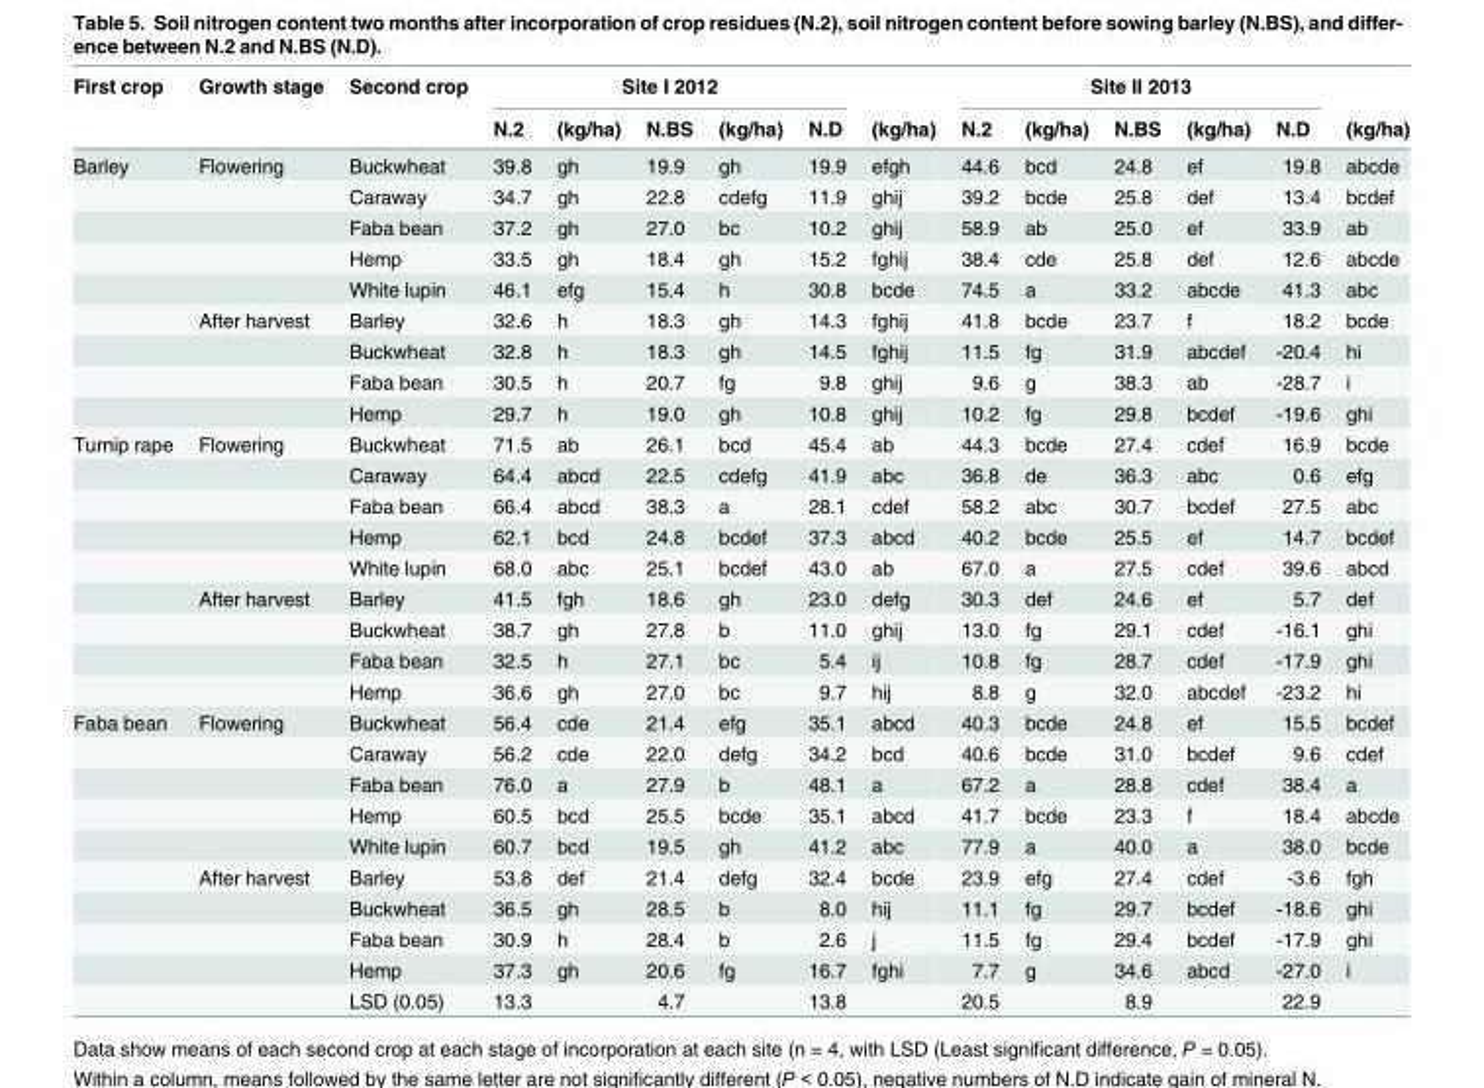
<table><thead><tr><td rowspan="2">First crop</td><td rowspan="2">Growth stage</td><td rowspan="2">Second crop</td><td colspan="5">Site I 2012</td><td rowspan="2">(kg/ha)</td><td colspan="5">Site II 2013</td><td rowspan="2">(kg/ha)</td></tr><tr><td>N.2</td><td>(kg/ha)</td><td>N.BS</td><td>(kg/ha)</td><td>N.D</td><td>N.2</td><td>(kg/ha)</td><td>N.BS</td><td>(kg/ha)</td><td>N.D</td></tr></thead><tbody><tr><td rowspan="9">Barley</td><td>Flowering</td><td>Buckwheat</td><td>39.8</td><td>gh</td><td>19.9</td><td>gh</td><td>19.9</td><td>efgh</td><td>44.6</td><td>bcd</td><td>24.8</td><td>ef</td><td>19.8</td><td>abcde</td></tr><tr><td></td><td>Caraway</td><td>34.7</td><td>gh</td><td>22.8</td><td>cdefg</td><td>11.9</td><td>ghij</td><td>39.2</td><td>bcde</td><td>25.8</td><td>def</td><td>13.4</td><td>bcdef</td></tr><tr><td></td><td>Faba bean</td><td>37.2</td><td>gh</td><td>27.0</td><td>bc</td><td>10.2</td><td>ghij</td><td>58.9</td><td>ab</td><td>25.0</td><td>ef</td><td>33.9</td><td>ab</td></tr><tr><td></td><td>Hemp</td><td>33.5</td><td>gh</td><td>18.4</td><td>gh</td><td>15.2</td><td>fghij</td><td>38.4</td><td>cde</td><td>25.8</td><td>def</td><td>12.6</td><td>abcde</td></tr><tr><td></td><td>White lupin</td><td>46.1</td><td>efg</td><td>15.4</td><td>h</td><td>30.8</td><td>bcde</td><td>74.5</td><td>a</td><td>33.2</td><td>abcde</td><td>41.3</td><td>abc</td></tr><tr><td>After harvest</td><td>Barley</td><td>32.6</td><td>h</td><td>18.3</td><td>gh</td><td>14.3</td><td>fghij</td><td>41.8</td><td>bcde</td><td>23.7</td><td>f</td><td>18.2</td><td>bcde</td></tr><tr><td></td><td>Buckwheat</td><td>32.8</td><td>h</td><td>18.3</td><td>gh</td><td>14.5</td><td>fghij</td><td>11.5</td><td>fg</td><td>31.9</td><td>abcdef</td><td>-20.4</td><td>hi</td></tr><tr><td></td><td>Faba bean</td><td>30.5</td><td>h</td><td>20.7</td><td>fg</td><td>9.8</td><td>ghij</td><td>9.6</td><td>g</td><td>38.3</td><td>ab</td><td>-28.7</td><td>i</td></tr><tr><td></td><td>Hemp</td><td>29.7</td><td>h</td><td>19.0</td><td>gh</td><td>10.8</td><td>ghij</td><td>10.2</td><td>fg</td><td>29.8</td><td>bcdef</td><td>-19.6</td><td>ghi</td></tr><tr><td rowspan="9">Turnip rape</td><td>Flowering</td><td>Buckwheat</td><td>71.5</td><td>ab</td><td>26.1</td><td>bcd</td><td>45.4</td><td>ab</td><td>44.3</td><td>bcde</td><td>27.4</td><td>cdef</td><td>16.9</td><td>bcde</td></tr><tr><td></td><td>Caraway</td><td>64.4</td><td>abcd</td><td>22.5</td><td>cdefg</td><td>41.9</td><td>abc</td><td>36.8</td><td>de</td><td>36.3</td><td>abc</td><td>0.6</td><td>efg</td></tr><tr><td></td><td>Faba bean</td><td>66.4</td><td>abcd</td><td>38.3</td><td>a</td><td>28.1</td><td>cdef</td><td>58.2</td><td>abc</td><td>30.7</td><td>bcdef</td><td>27.5</td><td>abc</td></tr><tr><td></td><td>Hemp</td><td>62.1</td><td>bcd</td><td>24.8</td><td>bcdef</td><td>37.3</td><td>abcd</td><td>40.2</td><td>bcde</td><td>25.5</td><td>ef</td><td>14.7</td><td>bcdef</td></tr><tr><td></td><td>White lupin</td><td>68.0</td><td>abc</td><td>25.1</td><td>bcdef</td><td>43.0</td><td>ab</td><td>67.0</td><td>a</td><td>27.5</td><td>cdef</td><td>39.6</td><td>abcd</td></tr><tr><td>After harvest</td><td>Barley</td><td>41.5</td><td>fgh</td><td>18.6</td><td>gh</td><td>23.0</td><td>defg</td><td>30.3</td><td>def</td><td>24.6</td><td>ef</td><td>5.7</td><td>def</td></tr><tr><td></td><td>Buckwheat</td><td>38.7</td><td>gh</td><td>27.8</td><td>b</td><td>11.0</td><td>ghij</td><td>13.0</td><td>fg</td><td>29.1</td><td>cdef</td><td>-16.1</td><td>ghi</td></tr><tr><td></td><td>Faba bean</td><td>32.5</td><td>h</td><td>27.1</td><td>bc</td><td>5.4</td><td>ij</td><td>10.8</td><td>fg</td><td>28.7</td><td>cdef</td><td>-17.9</td><td>ghi</td></tr><tr><td></td><td>Hemp</td><td>36.6</td><td>gh</td><td>27.0</td><td>bc</td><td>9.7</td><td>hij</td><td>8.8</td><td>g</td><td>32.0</td><td>abcdef</td><td>-23.2</td><td>hi</td></tr><tr><td rowspan="10">Faba bean</td><td>Flowering</td><td>Buckwheat</td><td>56.4</td><td>cde</td><td>21.4</td><td>efg</td><td>35.1</td><td>abcd</td><td>40.3</td><td>bcde</td><td>24.8</td><td>ef</td><td>15.5</td><td>bcdef</td></tr><tr><td></td><td>Caraway</td><td>56.2</td><td>cde</td><td>22.0</td><td>defg</td><td>34.2</td><td>bcd</td><td>40.6</td><td>bcde</td><td>31.0</td><td>bcdef</td><td>9.6</td><td>cdef</td></tr><tr><td></td><td>Faba bean</td><td>76.0</td><td>a</td><td>27.9</td><td>b</td><td>48.1</td><td>a</td><td>67.2</td><td>a</td><td>28.8</td><td>cdef</td><td>38.4</td><td>a</td></tr><tr><td></td><td>Hemp</td><td>60.5</td><td>bcd</td><td>25.5</td><td>bcde</td><td>35.1</td><td>abcd</td><td>41.7</td><td>bcde</td><td>23.3</td><td>f</td><td>18.4</td><td>abcde</td></tr><tr><td></td><td>White lupin</td><td>60.7</td><td>bcd</td><td>19.5</td><td>gh</td><td>41.2</td><td>abc</td><td>77.9</td><td>a</td><td>40.0</td><td>a</td><td>38.0</td><td>bcde</td></tr><tr><td>After harvest</td><td>Barley</td><td>53.8</td><td>def</td><td>21.4</td><td>defg</td><td>32.4</td><td>bcde</td><td>23.9</td><td>efg</td><td>27.4</td><td>cdef</td><td>-3.6</td><td>fgh</td></tr><tr><td></td><td>Buckwheat</td><td>36.5</td><td>gh</td><td>28.5</td><td>b</td><td>8.0</td><td>hij</td><td>11.1</td><td>fg</td><td>29.7</td><td>bcdef</td><td>-18.6</td><td>ghi</td></tr><tr><td></td><td>Faba bean</td><td>30.9</td><td>h</td><td>28.4</td><td>b</td><td>2.6</td><td>j</td><td>11.5</td><td>fg</td><td>29.4</td><td>bcdef</td><td>-17.9</td><td>ghi</td></tr><tr><td></td><td>Hemp</td><td>37.3</td><td>gh</td><td>20.6</td><td>fg</td><td>16.7</td><td>fghi</td><td>7.7</td><td>g</td><td>34.6</td><td>abcd</td><td>-27.0</td><td>i</td></tr><tr><td></td><td>LSD (0.05)</td><td>13.3</td><td></td><td>4.7</td><td></td><td>13.8</td><td></td><td>20.5</td><td></td><td>8.9</td><td></td><td>22.9</td><td></td></tr></tbody></table>